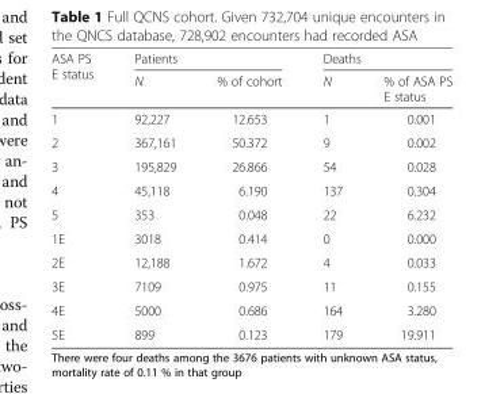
<table><thead><tr><td rowspan="2">ASA PS E status</td><td colspan="2">Patients</td><td colspan="2">Deaths</td></tr><tr><td>N</td><td>% of cohort</td><td>N</td><td>% of ASA PS E status</td></tr></thead><tbody><tr><td>1</td><td>92,227</td><td>12.653</td><td>1</td><td>0.001</td></tr><tr><td>2</td><td>367,161</td><td>50.372</td><td>9</td><td>0.002</td></tr><tr><td>3</td><td>195,829</td><td>26.866</td><td>54</td><td>0.028</td></tr><tr><td>4</td><td>45,118</td><td>6.190</td><td>137</td><td>0.304</td></tr><tr><td>5</td><td>353</td><td>0.048</td><td>22</td><td>6.232</td></tr><tr><td>1E</td><td>3018</td><td>0.414</td><td>0</td><td>0.000</td></tr><tr><td>2E</td><td>12,188</td><td>1.672</td><td>4</td><td>0.033</td></tr><tr><td>3E</td><td>7109</td><td>0.975</td><td>11</td><td>0.155</td></tr><tr><td>4E</td><td>5000</td><td>0.686</td><td>164</td><td>3.280</td></tr><tr><td>5E</td><td>899</td><td>0.123</td><td>179</td><td>19.911</td></tr></tbody></table>